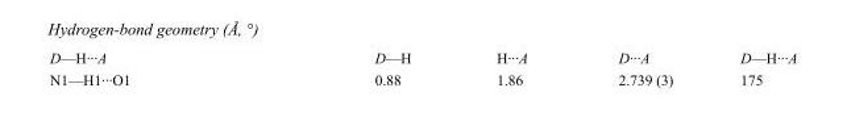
<table><tbody><tr><td>D—H···A</td><td>D—H</td><td>H···A</td><td>D···A</td><td>D—H···A</td></tr><tr><td>N1—H1···O1</td><td>0.88</td><td>1.86</td><td>2.739 (3)</td><td>175</td></tr></tbody></table>